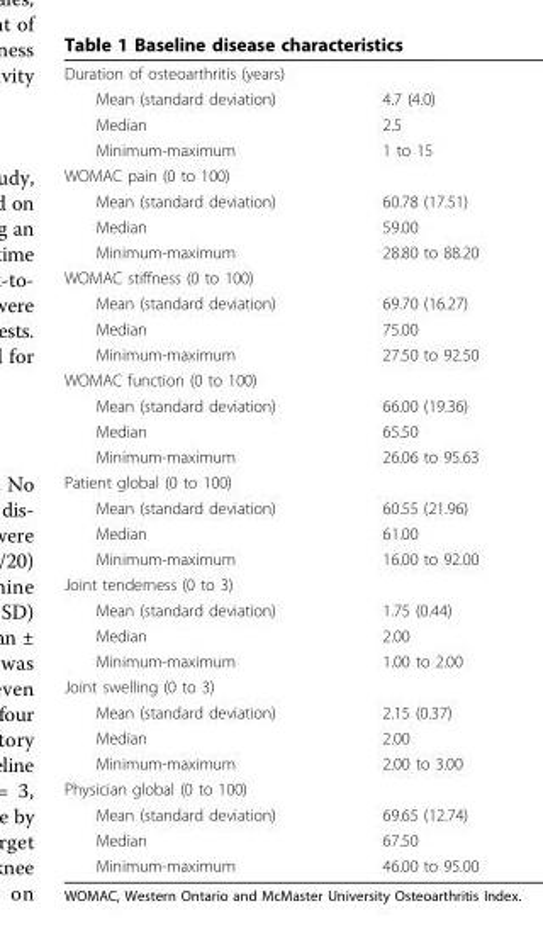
<table><tbody><tr><td colspan="2">Duration of osteoarthritis (years)</td></tr><tr><td>Mean (standard deviation)</td><td>4.7 (4.0)</td></tr><tr><td>Median</td><td>2.5</td></tr><tr><td>Minimum-maximum</td><td>1 to 15</td></tr><tr><td colspan="2">WOMAC pain (0 to 100)</td></tr><tr><td>Mean (standard deviation)</td><td>60.78 (17.51)</td></tr><tr><td>Median</td><td>59.00</td></tr><tr><td>Minimum-maximum</td><td>28.80 to 88.20</td></tr><tr><td colspan="2">WOMAC stiffness (0 to 100)</td></tr><tr><td>Mean (standard deviation)</td><td>69.70 (16.27)</td></tr><tr><td>Median</td><td>75.00</td></tr><tr><td>Minimum-maximum</td><td>27.50 to 92.50</td></tr><tr><td colspan="2">WOMAC function (0 to 100)</td></tr><tr><td>Mean (standard deviation)</td><td>66.00 (19.36)</td></tr><tr><td>Median</td><td>65.50</td></tr><tr><td>Minimum-maximum</td><td>26.06 to 95.63</td></tr><tr><td colspan="2">Patient global (0 to 100)</td></tr><tr><td>Mean (standard deviation)</td><td>60.55 (21.96)</td></tr><tr><td>Median</td><td>61.00</td></tr><tr><td>Minimum-maximum</td><td>16.00 to 92.00</td></tr><tr><td colspan="2">Joint tenderness (0 to 3)</td></tr><tr><td>Mean (standard deviation)</td><td>1.75 (0.44)</td></tr><tr><td>Median</td><td>2.00</td></tr><tr><td>Minimum-maximum</td><td>1.00 to 2.00</td></tr><tr><td colspan="2">Joint swelling (0 to 3)</td></tr><tr><td>Mean (standard deviation)</td><td>2.15 (0.37)</td></tr><tr><td>Median</td><td>2.00</td></tr><tr><td>Minimum-maximum</td><td>2.00 to 3.00</td></tr><tr><td colspan="2">Physician global (0 to 100)</td></tr><tr><td>Mean (standard deviation)</td><td>69.65 (12.74)</td></tr><tr><td>Median</td><td>67.50</td></tr><tr><td>Minimum-maximum</td><td>46.00 to 95.00</td></tr></tbody></table>